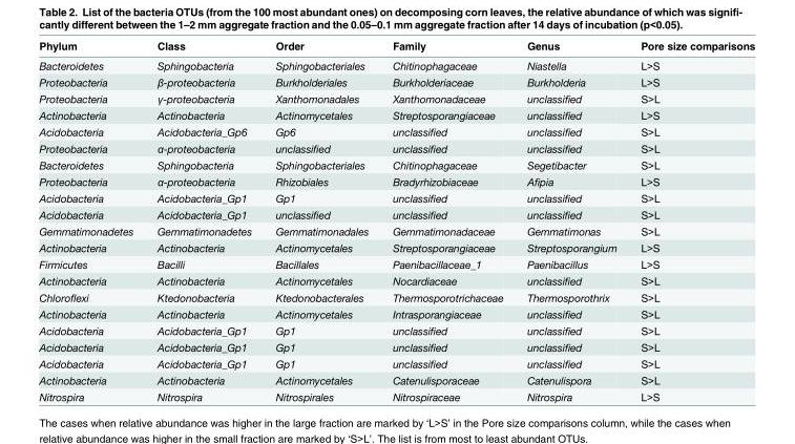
<table><thead><tr><td>Phylum</td><td>Class</td><td>Order</td><td>Family</td><td>Genus</td><td>Pore size comparisons</td></tr></thead><tbody><tr><td>Bacteroidetes</td><td>Sphingobacteria</td><td>Sphingobacteriales</td><td>Chitinophagaceae</td><td>Niastella</td><td>L&gt;S</td></tr><tr><td>Proteobacteria</td><td>β-proteobacteria</td><td>Burkholderiales</td><td>Burkholderiaceae</td><td>Burkholderia</td><td>L&gt;S</td></tr><tr><td>Proteobacteria</td><td>γ-proteobacteria</td><td>Xanthomonadales</td><td>Xanthomonadaceae</td><td>unclassified</td><td>S&gt;L</td></tr><tr><td>Actinobacteria</td><td>Actinobacteria</td><td>Actinomycetales</td><td>Streptosporangiaceae</td><td>unclassified</td><td>L&gt;S</td></tr><tr><td>Acidobacteria</td><td>Acidobacteria_Gp6</td><td>Gp6</td><td>unclassified</td><td>unclassified</td><td>S&gt;L</td></tr><tr><td>Proteobacteria</td><td>α-proteobacteria</td><td>unclassified</td><td>unclassified</td><td>unclassified</td><td>S&gt;L</td></tr><tr><td>Bacteroidetes</td><td>Sphingobacteria</td><td>Sphingobacteriales</td><td>Chitinophagaceae</td><td>Segetibacter</td><td>S&gt;L</td></tr><tr><td>Proteobacteria</td><td>α-proteobacteria</td><td>Rhizobiales</td><td>Bradyrhizobiaceae</td><td>Afipia</td><td>L&gt;S</td></tr><tr><td>Acidobacteria</td><td>Acidobacteria_Gp1</td><td>Gp1</td><td>unclassified</td><td>unclassified</td><td>S&gt;L</td></tr><tr><td>Acidobacteria</td><td>Acidobacteria_Gp1</td><td>unclassified</td><td>unclassified</td><td>unclassified</td><td>S&gt;L</td></tr><tr><td>Gemmatimonadetes</td><td>Gemmatimonadetes</td><td>Gemmatimonadales</td><td>Gemmatimonadaceae</td><td>Gemmatimonas</td><td>S&gt;L</td></tr><tr><td>Actinobacteria</td><td>Actinobacteria</td><td>Actinomycetales</td><td>Streptosporangiaceae</td><td>Streptosporangium</td><td>L&gt;S</td></tr><tr><td>Firmicutes</td><td>Bacilli</td><td>Bacillales</td><td>Paenibacillaceae_1</td><td>Paenibacillus</td><td>L&gt;S</td></tr><tr><td>Actinobacteria</td><td>Actinobacteria</td><td>Actinomycetales</td><td>Nocardiaceae</td><td>unclassified</td><td>S&gt;L</td></tr><tr><td>Chloroflexi</td><td>Ktedonobacteria</td><td>Ktedonobacterales</td><td>Thermosporotrichaceae</td><td>Thermosporothrix</td><td>S&gt;L</td></tr><tr><td>Actinobacteria</td><td>Actinobacteria</td><td>Actinomycetales</td><td>Intrasporangiaceae</td><td>unclassified</td><td>S&gt;L</td></tr><tr><td>Acidobacteria</td><td>Acidobacteria_Gp1</td><td>Gp1</td><td>unclassified</td><td>unclassified</td><td>S&gt;L</td></tr><tr><td>Acidobacteria</td><td>Acidobacteria_Gp1</td><td>Gp1</td><td>unclassified</td><td>unclassified</td><td>S&gt;L</td></tr><tr><td>Acidobacteria</td><td>Acidobacteria_Gp1</td><td>Gp1</td><td>unclassified</td><td>unclassified</td><td>S&gt;L</td></tr><tr><td>Actinobacteria</td><td>Actinobacteria</td><td>Actinomycetales</td><td>Catenulisporaceae</td><td>Catenulispora</td><td>S&gt;L</td></tr><tr><td>Nitrospira</td><td>Nitrospira</td><td>Nitrospirales</td><td>Nitrospiraceae</td><td>Nitrospira</td><td>L&gt;S</td></tr></tbody></table>